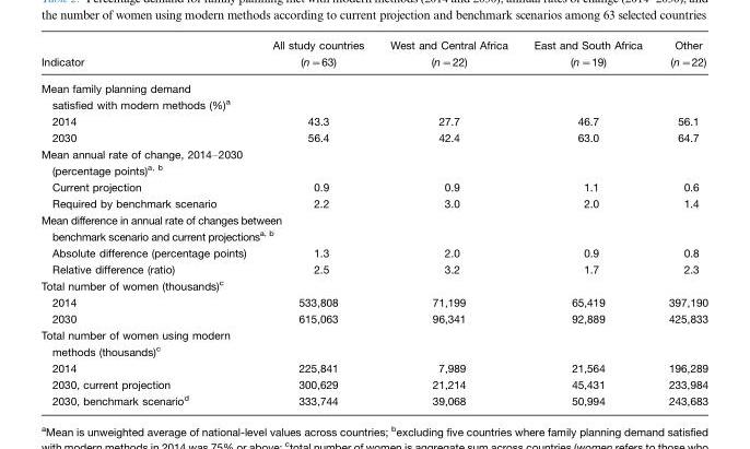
<table><thead><tr><td rowspan="2">Indicator</td><td rowspan="2">All study countries (n=63)</td><td rowspan="2">West and Central Africa (n=22)</td><td rowspan="2">East and South Africa (n=19)</td><td rowspan="2">Other (n=22)</td></tr><tr></tr></thead><tbody><tr><td colspan="5">Mean family planning demand satisfied with modern methods (%)a</td></tr><tr><td>2014</td><td>43.3</td><td>27.7</td><td>46.7</td><td>56.1</td></tr><tr><td>2030</td><td>56.4</td><td>42.4</td><td>63.0</td><td>64.7</td></tr><tr><td colspan="5">Mean annual rate of change, 2014�2030 (percentage points)a, b</td></tr><tr><td>Current projection</td><td>0.9</td><td>0.9</td><td>1.1</td><td>0.6</td></tr><tr><td>Required by benchmark scenario</td><td>2.2</td><td>3.0</td><td>2.0</td><td>1.4</td></tr><tr><td colspan="5">Mean difference in annual rate of changes between benchmark scenario and current projectionsa, b</td></tr><tr><td>Absolute difference (percentage points)</td><td>1.3</td><td>2.0</td><td>0.9</td><td>0.8</td></tr><tr><td>Relative difference (ratio)</td><td>2.5</td><td>3.2</td><td>1.7</td><td>2.3</td></tr><tr><td colspan="5">Total number of women (thousands)c</td></tr><tr><td>2014</td><td>533,808</td><td>71,199</td><td>65,419</td><td>397,190</td></tr><tr><td>2030</td><td>615,063</td><td>96,341</td><td>92,889</td><td>425,833</td></tr><tr><td colspan="5">Total number of women using modern methods (thousands)c</td></tr><tr><td>2014</td><td>225,841</td><td>7,989</td><td>21,564</td><td>196,289</td></tr><tr><td>2030, current projection</td><td>300,629</td><td>21,214</td><td>45,431</td><td>233,984</td></tr><tr><td>2030, benchmark scenariod</td><td>333,744</td><td>39,068</td><td>50,994</td><td>243,683</td></tr></tbody></table>